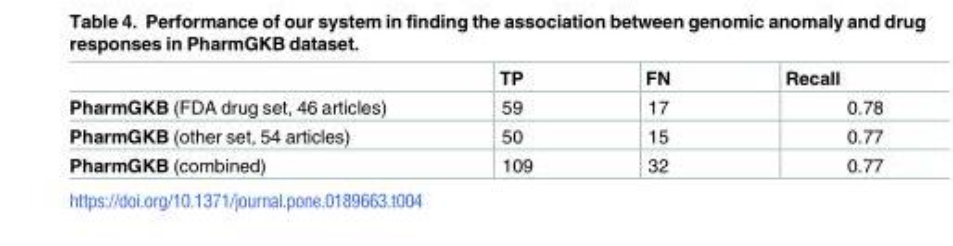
<table><thead><tr><td></td><td>TP</td><td>FN</td><td>Recall</td></tr></thead><tbody><tr><td>PharmGKB (FDA drug set, 46 articles)</td><td>59</td><td>17</td><td>0.78</td></tr><tr><td>PharmGKB (other set, 54 articles)</td><td>50</td><td>15</td><td>0.77</td></tr><tr><td>PharmGKB (combined)</td><td>109</td><td>32</td><td>0.77</td></tr></tbody></table>